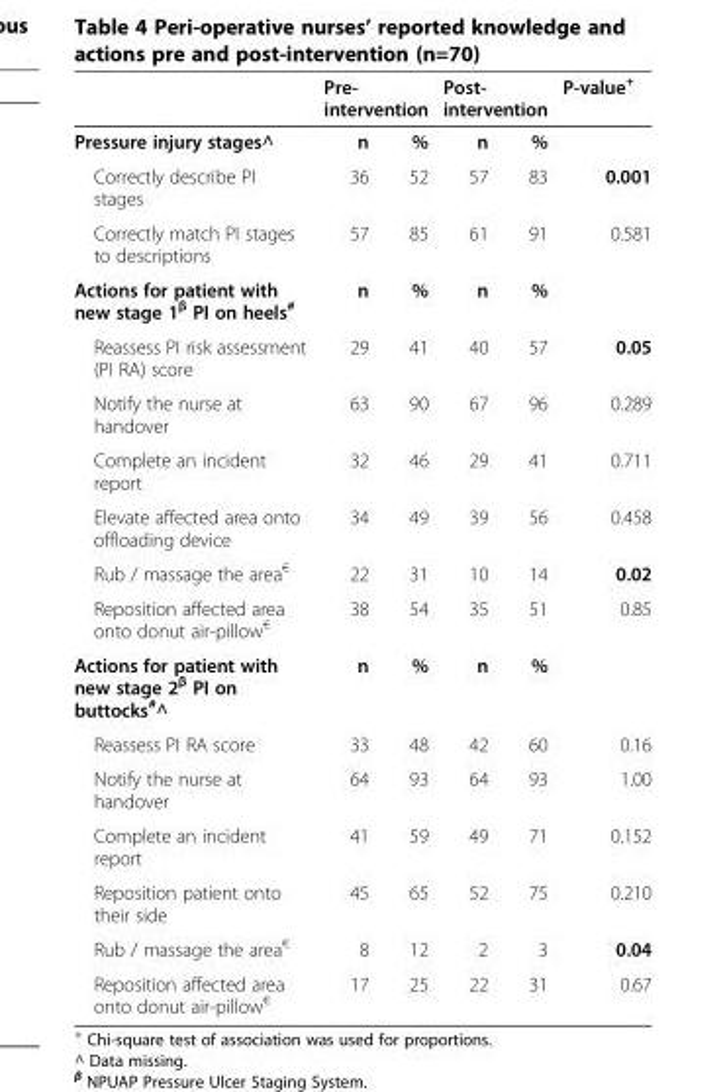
<table><thead><tr><td rowspan="2">Pressure injury stages^</td><td colspan="2">Pre- intervention</td><td colspan="2">Post- intervention</td><td rowspan="2">P-value<sup>+</sup></td></tr><tr><td>n</td><td>%</td><td>n</td><td>%</td></tr></thead><tbody><tr><td>Correctly describe PI stages</td><td>36</td><td>52</td><td>57</td><td>83</td><td>0.001</td></tr><tr><td>Correctly match PI stages to descriptions</td><td>57</td><td>85</td><td>61</td><td>91</td><td>0.581</td></tr><tr><td>Actions for patient with new stage 1<sup>β</sup> PI on heels<sup>#</sup></td><td>n</td><td>%</td><td>n</td><td>%</td><td></td></tr><tr><td>Reassess PI risk assessment (PI RA) score</td><td>29</td><td>41</td><td>40</td><td>57</td><td>0.05</td></tr><tr><td>Notify the nurse at handover</td><td>63</td><td>90</td><td>67</td><td>96</td><td>0.289</td></tr><tr><td>Complete an incident report</td><td>32</td><td>46</td><td>29</td><td>41</td><td>0.711</td></tr><tr><td>Elevate affected area onto offloading device</td><td>34</td><td>49</td><td>39</td><td>56</td><td>0.458</td></tr><tr><td>Rub / massage the area<sup>€</sup></td><td>22</td><td>31</td><td>10</td><td>14</td><td>0.02</td></tr><tr><td>Reposition affected area onto donut air-pillow<sup>€</sup></td><td>38</td><td>54</td><td>35</td><td>51</td><td>0.85</td></tr><tr><td>Actions for patient with new stage 2<sup>β</sup> PI on buttocks<sup>#</sup>^</td><td>n</td><td>%</td><td>n</td><td>%</td><td></td></tr><tr><td>Reassess PI RA score</td><td>33</td><td>48</td><td>42</td><td>60</td><td>0.16</td></tr><tr><td>Notify the nurse at handover</td><td>64</td><td>93</td><td>64</td><td>93</td><td>1.00</td></tr><tr><td>Complete an incident report</td><td>41</td><td>59</td><td>49</td><td>71</td><td>0.152</td></tr><tr><td>Reposition patient onto their side</td><td>45</td><td>65</td><td>52</td><td>75</td><td>0.210</td></tr><tr><td>Rub / massage the area<sup>€</sup></td><td>8</td><td>12</td><td>2</td><td>3</td><td>0.04</td></tr><tr><td>Reposition affected area onto donut air-pillow<sup>€</sup></td><td>17</td><td>25</td><td>22</td><td>31</td><td>0.67</td></tr></tbody></table>